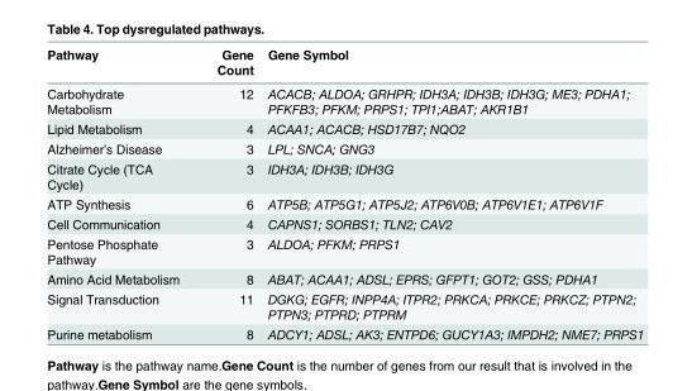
<table><thead><tr><td>Pathway</td><td>Gene Count</td><td>Gene Symbol</td></tr></thead><tbody><tr><td>Carbohydrate Metabolism</td><td>12</td><td>ACACB; ALDOA; GRHPR; IDH3A; IDH3B; IDH3G; ME3; PDHA1; PFKFB3; PFKM; PRPS1; TPI1;ABAT; AKR1B1</td></tr><tr><td>Lipid Metabolism</td><td>4</td><td>ACAA1; ACACB; HSD17B7; NQO2</td></tr><tr><td>Alzheimer’s Disease</td><td>3</td><td>LPL; SNCA; GNG3</td></tr><tr><td>Citrate Cycle (TCA Cycle)</td><td>3</td><td>IDH3A; IDH3B; IDH3G</td></tr><tr><td>ATP Synthesis</td><td>6</td><td>ATP5B; ATP5G1; ATP5J2; ATP6V0B; ATP6V1E1; ATP6V1F</td></tr><tr><td>Cell Communication</td><td>4</td><td>CAPNS1; SORBS1; TLN2; CAV2</td></tr><tr><td>Pentose Phosphate Pathway</td><td>3</td><td>ALDOA; PFKM; PRPS1</td></tr><tr><td>Amino Acid Metabolism</td><td>8</td><td>ABAT; ACAA1; ADSL; EPRS; GFPT1; GOT2; GSS; PDHA1</td></tr><tr><td>Signal Transduction</td><td>11</td><td>DGKG; EGFR; INPP4A; ITPR2; PRKCA; PRKCE; PRKCZ; PTPN2; PTPN3; PTPRD; PTPRM</td></tr><tr><td>Purine metabolism</td><td>8</td><td>ADCY1; ADSL; AK3; ENTPD6; GUCY1A3; IMPDH2; NME7; PRPS1</td></tr></tbody></table>